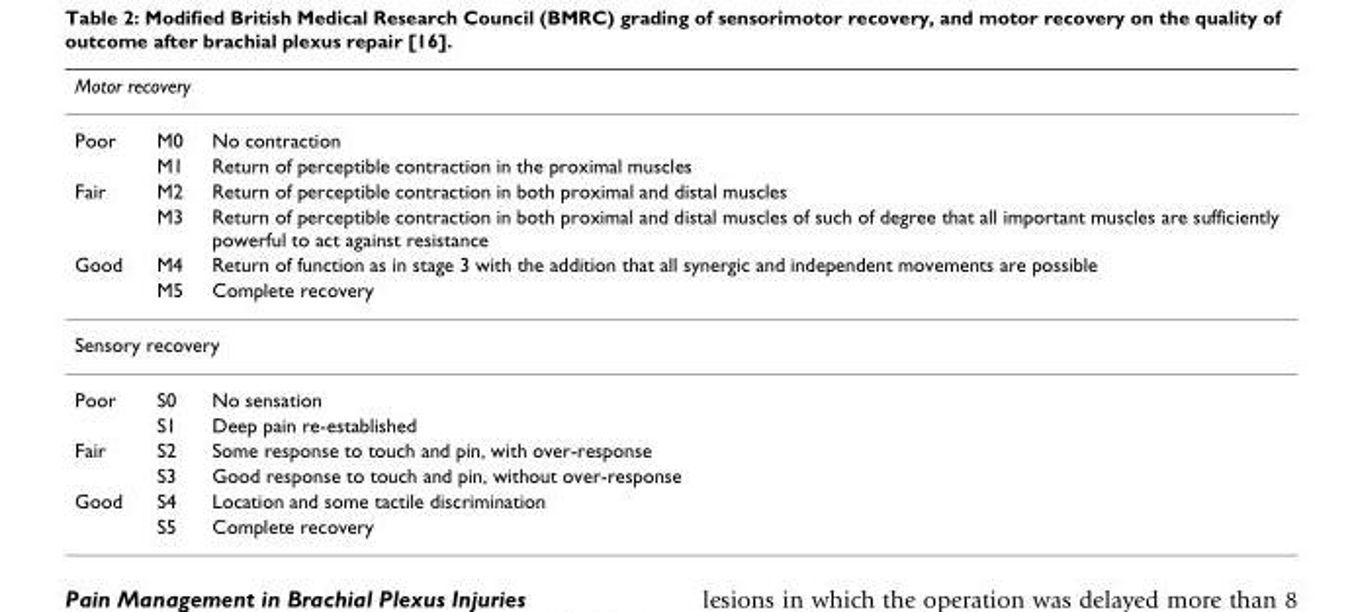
<table><thead><tr><td colspan="3">Motor recovery</td></tr><tr><td>Poor</td><td>M0</td><td>No contraction</td></tr></thead><tbody><tr><td></td><td>M1</td><td>Return of perceptible contraction in the proximal muscles</td></tr><tr><td rowspan="2">Fair</td><td>M2</td><td>Return of perceptible contraction in both proximal and distal muscles</td></tr><tr><td>M3</td><td>Return of perceptible contraction in both proximal and distal muscles of such of degree that all important muscles are sufficiently powerful to act against resistance</td></tr><tr><td rowspan="2">Good</td><td>M4</td><td>Return of function as in stage 3 with the addition that all synergic and independent movements are possible</td></tr><tr><td>M5</td><td>Complete recovery</td></tr><tr><td colspan="3">Sensory recovery</td></tr><tr><td rowspan="2">Poor</td><td>S0</td><td>No sensation</td></tr><tr><td>S1</td><td>Deep pain re-established</td></tr><tr><td rowspan="2">Fair</td><td>S2</td><td>Some response to touch and pin, with over-response</td></tr><tr><td>S3</td><td>Good response to touch and pin, without over-response</td></tr><tr><td rowspan="2">Good</td><td>S4</td><td>Location and some tactile discrimination</td></tr><tr><td>S5</td><td>Complete recovery</td></tr></tbody></table>